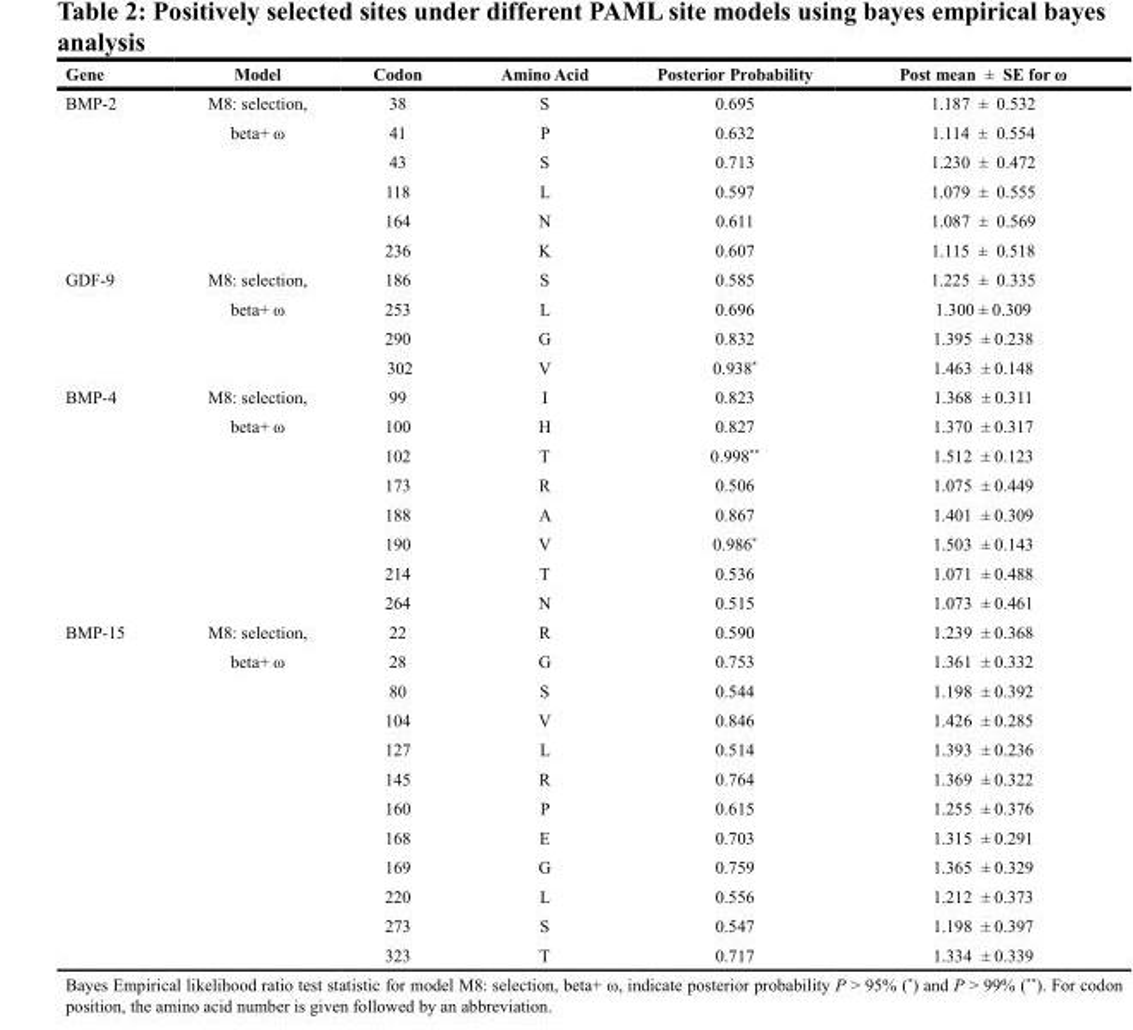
<table><thead><tr><td>Gene</td><td>Model</td><td>Codon</td><td>Amino Acid</td><td>Posterior Probability</td><td>Post mean ± SE for ω</td></tr></thead><tbody><tr><td rowspan="6">BMP-2</td><td>M8: selection,</td><td>38</td><td>S</td><td>0.695</td><td>1.187 ± 0.532</td></tr><tr><td>beta+ ω</td><td>41</td><td>P</td><td>0.632</td><td>1.114 ± 0.554</td></tr><tr><td></td><td>43</td><td>S</td><td>0.713</td><td>1.230 ± 0.472</td></tr><tr><td></td><td>118</td><td>L</td><td>0.597</td><td>1.079 ± 0.555</td></tr><tr><td></td><td>164</td><td>N</td><td>0.611</td><td>1.087 ± 0.569</td></tr><tr><td></td><td>236</td><td>K</td><td>0.607</td><td>1.115 ± 0.518</td></tr><tr><td rowspan="4">GDF-9</td><td>M8: selection,</td><td>186</td><td>S</td><td>0.585</td><td>1.225 ± 0.335</td></tr><tr><td>beta+ ω</td><td>253</td><td>L</td><td>0.696</td><td>1.300 ± 0.309</td></tr><tr><td></td><td>290</td><td>G</td><td>0.832</td><td>1.395 ± 0.238</td></tr><tr><td></td><td>302</td><td>V</td><td>0.938*</td><td>1.463 ± 0.148</td></tr><tr><td rowspan="8">BMP-4</td><td>M8: selection,</td><td>99</td><td>I</td><td>0.823</td><td>1.368 ± 0.311</td></tr><tr><td>beta+ ω</td><td>100</td><td>H</td><td>0.827</td><td>1.370 ± 0.317</td></tr><tr><td></td><td>102</td><td>T</td><td>0.998**</td><td>1.512 ± 0.123</td></tr><tr><td></td><td>173</td><td>R</td><td>0.506</td><td>1.075 ± 0.449</td></tr><tr><td></td><td>188</td><td>A</td><td>0.867</td><td>1.401 ± 0.309</td></tr><tr><td></td><td>190</td><td>V</td><td>0.986*</td><td>1.503 ± 0.143</td></tr><tr><td></td><td>214</td><td>T</td><td>0.536</td><td>1.071 ± 0.488</td></tr><tr><td></td><td>264</td><td>N</td><td>0.515</td><td>1.073 ± 0.461</td></tr><tr><td rowspan="12">BMP-15</td><td>M8: selection,</td><td>22</td><td>R</td><td>0.590</td><td>1.239 ± 0.368</td></tr><tr><td>beta+ ω</td><td>28</td><td>G</td><td>0.753</td><td>1.361 ± 0.332</td></tr><tr><td></td><td>80</td><td>S</td><td>0.544</td><td>1.198 ± 0.392</td></tr><tr><td></td><td>104</td><td>V</td><td>0.846</td><td>1.426 ± 0.285</td></tr><tr><td></td><td>127</td><td>L</td><td>0.514</td><td>1.393 ± 0.236</td></tr><tr><td></td><td>145</td><td>R</td><td>0.764</td><td>1.369 ± 0.322</td></tr><tr><td></td><td>160</td><td>P</td><td>0.615</td><td>1.255 ± 0.376</td></tr><tr><td></td><td>168</td><td>E</td><td>0.703</td><td>1.315 ± 0.291</td></tr><tr><td></td><td>169</td><td>G</td><td>0.759</td><td>1.365 ± 0.329</td></tr><tr><td></td><td>220</td><td>L</td><td>0.556</td><td>1.212 ± 0.373</td></tr><tr><td></td><td>273</td><td>S</td><td>0.547</td><td>1.198 ± 0.397</td></tr><tr><td></td><td>323</td><td>T</td><td>0.717</td><td>1.334 ± 0.339</td></tr></tbody></table>